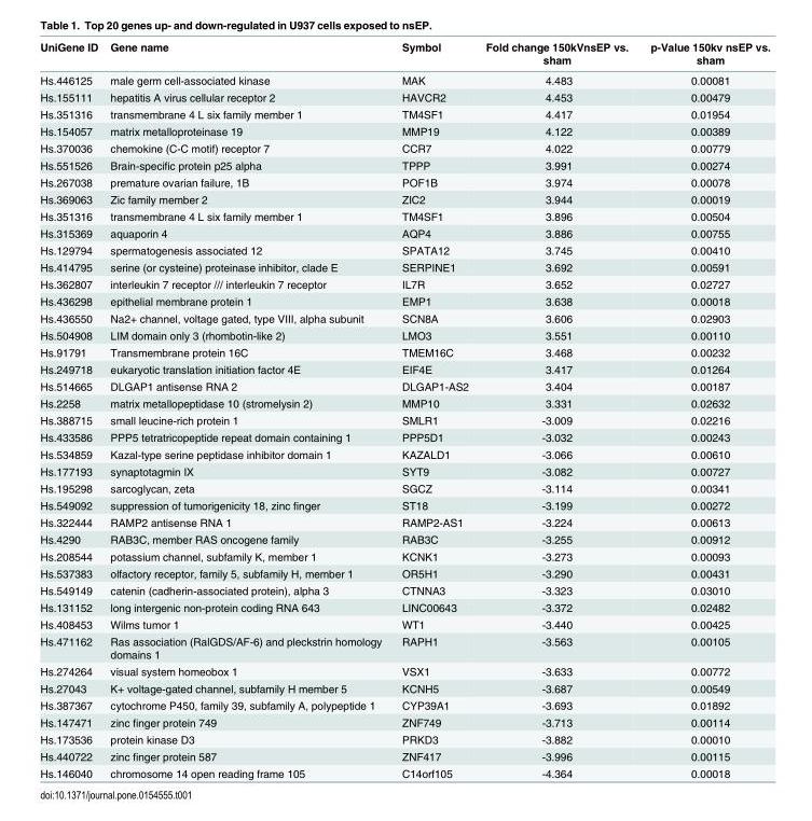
<table><thead><tr><td>UniGene ID</td><td>Gene name</td><td>Symbol</td><td>Fold change 150kVnsEP vs. sham</td><td>p-Value 150kv nsEP vs. sham</td></tr></thead><tbody><tr><td>Hs.446125</td><td>male germ cell-associated kinase</td><td>MAK</td><td>4.483</td><td>0.00081</td></tr><tr><td>Hs.155111</td><td>hepatitis A virus cellular receptor 2</td><td>HAVCR2</td><td>4.453</td><td>0.00479</td></tr><tr><td>Hs.351316</td><td>transmembrane 4 L six family member 1</td><td>TM4SF1</td><td>4.417</td><td>0.01954</td></tr><tr><td>Hs.154057</td><td>matrix metalloproteinase 19</td><td>MMP19</td><td>4.122</td><td>0.00389</td></tr><tr><td>Hs.370036</td><td>chemokine (C-C motif) receptor 7</td><td>CCR7</td><td>4.022</td><td>0.00779</td></tr><tr><td>Hs.551526</td><td>Brain-specific protein p25 alpha</td><td>TPPP</td><td>3.991</td><td>0.00274</td></tr><tr><td>Hs.267038</td><td>premature ovarian failure, 1B</td><td>POF1B</td><td>3.974</td><td>0.00078</td></tr><tr><td>Hs.369063</td><td>Zic family member 2</td><td>ZIC2</td><td>3.944</td><td>0.00019</td></tr><tr><td>Hs.351316</td><td>transmembrane 4 L six family member 1</td><td>TM4SF1</td><td>3.896</td><td>0.00504</td></tr><tr><td>Hs.315369</td><td>aquaporin 4</td><td>AQP4</td><td>3.886</td><td>0.00755</td></tr><tr><td>Hs.129794</td><td>spermatogenesis associated 12</td><td>SPATA12</td><td>3.745</td><td>0.00410</td></tr><tr><td>Hs.414795</td><td>serine (or cysteine) proteinase inhibitor, clade E</td><td>SERPINE1</td><td>3.692</td><td>0.00591</td></tr><tr><td>Hs.362807</td><td>interleukin 7 receptor /// interleukin 7 receptor</td><td>IL7R</td><td>3.652</td><td>0.02727</td></tr><tr><td>Hs.436298</td><td>epithelial membrane protein 1</td><td>EMP1</td><td>3.638</td><td>0.00018</td></tr><tr><td>Hs.436550</td><td>Na2+ channel, voltage gated, type VIII, alpha subunit</td><td>SCN8A</td><td>3.606</td><td>0.02903</td></tr><tr><td>Hs.504908</td><td>LIM domain only 3 (rhombotin-like 2)</td><td>LMO3</td><td>3.551</td><td>0.00110</td></tr><tr><td>Hs.91791</td><td>Transmembrane protein 16C</td><td>TMEM16C</td><td>3.468</td><td>0.00232</td></tr><tr><td>Hs.249718</td><td>eukaryotic translation initiation factor 4E</td><td>EIF4E</td><td>3.417</td><td>0.01264</td></tr><tr><td>Hs.514665</td><td>DLGAP1 antisense RNA 2</td><td>DLGAP1-AS2</td><td>3.404</td><td>0.00187</td></tr><tr><td>Hs.2258</td><td>matrix metallopeptidase 10 (stromelysin 2)</td><td>MMP10</td><td>3.331</td><td>0.02632</td></tr><tr><td>Hs.388715</td><td>small leucine-rich protein 1</td><td>SMLR1</td><td>-3.009</td><td>0.02216</td></tr><tr><td>Hs.433586</td><td>PPP5 tetratricopeptide repeat domain containing 1</td><td>PPP5D1</td><td>-3.032</td><td>0.00243</td></tr><tr><td>Hs.534859</td><td>Kazal-type serine peptidase inhibitor domain 1</td><td>KAZALD1</td><td>-3.066</td><td>0.00610</td></tr><tr><td>Hs.177193</td><td>synaptotagmin IX</td><td>SYT9</td><td>-3.082</td><td>0.00727</td></tr><tr><td>Hs.195298</td><td>sarcoglycan, zeta</td><td>SGCZ</td><td>-3.114</td><td>0.00341</td></tr><tr><td>Hs.549092</td><td>suppression of tumorigenicity 18, zinc finger</td><td>ST18</td><td>-3.199</td><td>0.00272</td></tr><tr><td>Hs.322444</td><td>RAMP2 antisense RNA 1</td><td>RAMP2-AS1</td><td>-3.224</td><td>0.00613</td></tr><tr><td>Hs.4290</td><td>RAB3C, member RAS oncogene family</td><td>RAB3C</td><td>-3.255</td><td>0.00912</td></tr><tr><td>Hs.208544</td><td>potassium channel, subfamily K, member 1</td><td>KCNK1</td><td>-3.273</td><td>0.00093</td></tr><tr><td>Hs.537383</td><td>olfactory receptor, family 5, subfamily H, member 1</td><td>OR5H1</td><td>-3.290</td><td>0.00431</td></tr><tr><td>Hs.549149</td><td>catenin (cadherin-associated protein), alpha 3</td><td>CTNNA3</td><td>-3.323</td><td>0.03010</td></tr><tr><td>Hs.131152</td><td>long intergenic non-protein coding RNA 643</td><td>LINC00643</td><td>-3.372</td><td>0.02482</td></tr><tr><td>Hs.408453</td><td>Wilms tumor 1</td><td>WT1</td><td>-3.440</td><td>0.00425</td></tr><tr><td>Hs.471162</td><td>Ras association (RalGDS/AF-6) and pleckstrin homology domains 1</td><td>RAPH1</td><td>-3.563</td><td>0.00105</td></tr><tr><td>Hs.274264</td><td>visual system homeobox 1</td><td>VSX1</td><td>-3.633</td><td>0.00772</td></tr><tr><td>Hs.27043</td><td>K+ voltage-gated channel, subfamily H member 5</td><td>KCNH5</td><td>-3.687</td><td>0.00549</td></tr><tr><td>Hs.387367</td><td>cytochrome P450, family 39, subfamily A, polypeptide 1</td><td>CYP39A1</td><td>-3.693</td><td>0.01892</td></tr><tr><td>Hs.147471</td><td>zinc finger protein 749</td><td>ZNF749</td><td>-3.713</td><td>0.00114</td></tr><tr><td>Hs.173536</td><td>protein kinase D3</td><td>PRKD3</td><td>-3.882</td><td>0.00010</td></tr><tr><td>Hs.440722</td><td>zinc finger protein 587</td><td>ZNF417</td><td>-3.996</td><td>0.00115</td></tr><tr><td>Hs.146040</td><td>chromosome 14 open reading frame 105</td><td>C14orf105</td><td>-4.364</td><td>0.00018</td></tr></tbody></table>